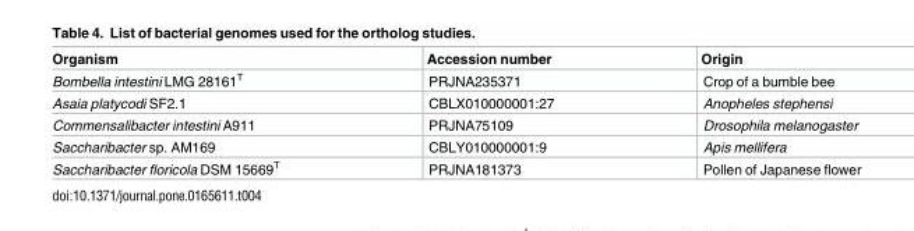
<table><thead><tr><td>Organism</td><td>Accession number</td><td>Origin</td></tr></thead><tbody><tr><td>Bombella intestini LMG 28161<sup>T</sup></td><td>PRJNA235371</td><td>Crop of a bumble bee</td></tr><tr><td>Asaia platycodi SF2.1</td><td>CBLX010000001:27</td><td>Anopheles stephensi</td></tr><tr><td>Commensalibacter intestini A911</td><td>PRJNA75109</td><td>Drosophila melanogaster</td></tr><tr><td>Saccharibacter sp. AM169</td><td>CBLY010000001:9</td><td>Apis mellifera</td></tr><tr><td>Saccharibacter floricola DSM 15669<sup>T</sup></td><td>PRJNA181373</td><td>Pollen of Japanese flower</td></tr></tbody></table>